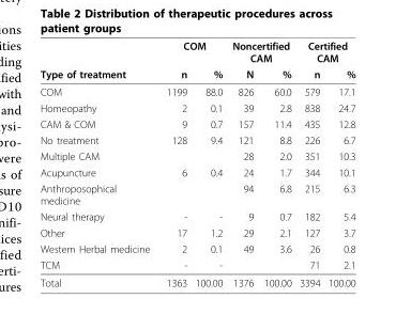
<table><thead><tr><td rowspan="2">Type of treatment</td><td colspan="2">COM</td><td colspan="2">Noncertified CAM</td><td colspan="2">Certified CAM</td></tr><tr><td>n</td><td>%</td><td>N</td><td>%</td><td>n</td><td>%</td></tr></thead><tbody><tr><td>COM</td><td>1199</td><td>88.0</td><td>826</td><td>60.0</td><td>579</td><td>17.1</td></tr><tr><td>Homeopathy</td><td>2</td><td>0.1</td><td>39</td><td>2.8</td><td>838</td><td>24.7</td></tr><tr><td>CAM &amp; COM</td><td>9</td><td>0.7</td><td>157</td><td>11.4</td><td>435</td><td>12.8</td></tr><tr><td>No treatment</td><td>128</td><td>9.4</td><td>121</td><td>8.8</td><td>226</td><td>6.7</td></tr><tr><td>Multiple CAM</td><td></td><td></td><td>28</td><td>2.0</td><td>351</td><td>10.3</td></tr><tr><td>Acupuncture</td><td>6</td><td>0.4</td><td>24</td><td>1.7</td><td>344</td><td>10.1</td></tr><tr><td>Anthroposophical medicine</td><td></td><td></td><td>94</td><td>6.8</td><td>215</td><td>6.3</td></tr><tr><td>Neural therapy</td><td>-</td><td>-</td><td>9</td><td>0.7</td><td>182</td><td>5.4</td></tr><tr><td>Other</td><td>17</td><td>1.2</td><td>29</td><td>2.1</td><td>127</td><td>3.7</td></tr><tr><td>Western Herbal medicine</td><td>2</td><td>0.1</td><td>49</td><td>3.6</td><td>26</td><td>0.8</td></tr><tr><td>TCM</td><td>-</td><td>-</td><td></td><td></td><td>71</td><td>2.1</td></tr><tr><td>Total</td><td>1363</td><td>100.00</td><td>1376</td><td>100.00</td><td>3394</td><td>100.00</td></tr></tbody></table>